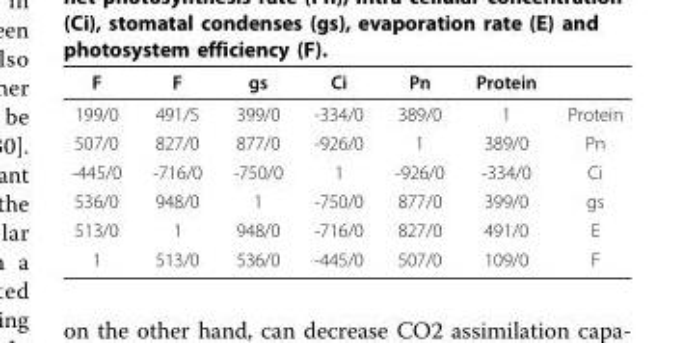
<table><thead><tr><td>F</td><td>F</td><td>gs</td><td>Ci</td><td>Pn</td><td>Protein</td><td></td></tr></thead><tbody><tr><td>199/0</td><td>491/5</td><td>399/0</td><td>-334/0</td><td>389/0</td><td>1</td><td>Protein</td></tr><tr><td>507/0</td><td>827/0</td><td>877/0</td><td>-926/0</td><td>1</td><td>389/0</td><td>Pn</td></tr><tr><td>-445/0</td><td>-716/0</td><td>-750/0</td><td>1</td><td>-926/0</td><td>-334/0</td><td>Ci</td></tr><tr><td>536/0</td><td>948/0</td><td>1</td><td>-750/0</td><td>877/0</td><td>399/0</td><td>gs</td></tr><tr><td>513/0</td><td>1</td><td>948/0</td><td>-716/0</td><td>827/0</td><td>491/0</td><td>E</td></tr><tr><td>1</td><td>513/0</td><td>536/0</td><td>-445/0</td><td>507/0</td><td>109/0</td><td>F</td></tr></tbody></table>